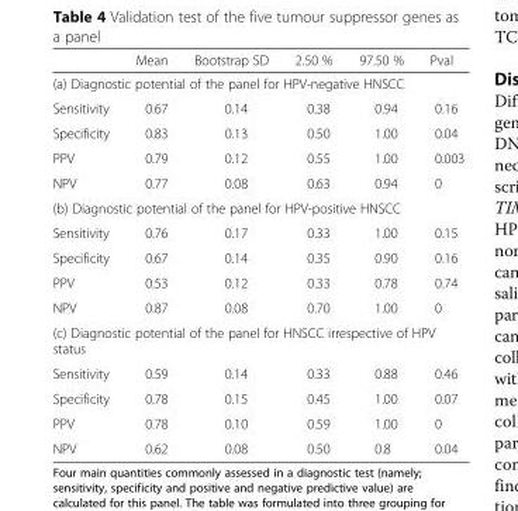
<table><thead><tr><td></td><td>Mean</td><td>Bootstrap SD</td><td>2.50 %</td><td>97.50 %</td><td>Pval</td></tr></thead><tbody><tr><td colspan="6">(a) Diagnostic potential of the panel for HPV-negative HNSCC</td></tr><tr><td>Sensitivity</td><td>0.67</td><td>0.14</td><td>0.38</td><td>0.94</td><td>0.16</td></tr><tr><td>Specificity</td><td>0.83</td><td>0.13</td><td>0.50</td><td>1.00</td><td>0.04</td></tr><tr><td>PPV</td><td>0.79</td><td>0.12</td><td>0.55</td><td>1.00</td><td>0.003</td></tr><tr><td>NPV</td><td>0.77</td><td>0.08</td><td>0.63</td><td>0.94</td><td>0</td></tr><tr><td colspan="6">(b) Diagnostic potential of the panel for HPV-positive HNSCC</td></tr><tr><td>Sensitivity</td><td>0.76</td><td>0.17</td><td>0.33</td><td>1.00</td><td>0.15</td></tr><tr><td>Specificity</td><td>0.67</td><td>0.14</td><td>0.35</td><td>0.90</td><td>0.16</td></tr><tr><td>PPV</td><td>0.53</td><td>0.12</td><td>0.33</td><td>0.78</td><td>0.74</td></tr><tr><td>NPV</td><td>0.87</td><td>0.08</td><td>0.70</td><td>1.00</td><td>0</td></tr><tr><td colspan="6">(c) Diagnostic potential of the panel for HNSCC irrespective of HPV status</td></tr><tr><td>Sensitivity</td><td>0.59</td><td>0.14</td><td>0.33</td><td>0.88</td><td>0.46</td></tr><tr><td>Specificity</td><td>0.78</td><td>0.15</td><td>0.45</td><td>1.00</td><td>0.07</td></tr><tr><td>PPV</td><td>0.78</td><td>0.10</td><td>0.59</td><td>1.00</td><td>0</td></tr><tr><td>NPV</td><td>0.62</td><td>0.08</td><td>0.50</td><td>0.8</td><td>0.04</td></tr></tbody></table>